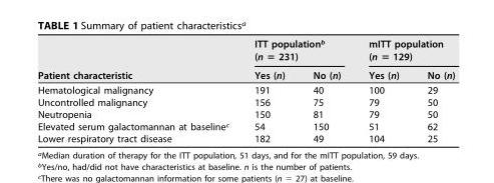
<table><thead><tr><td rowspan="2">Patient characteristic</td><td colspan="2">ITT population<sup>b</sup> (n = 231)</td><td colspan="2">mITT population (n = 129)</td></tr><tr><td>Yes (n)</td><td>No (n)</td><td>Yes (n)</td><td>No (n)</td></tr></thead><tbody><tr><td>Hematological malignancy</td><td>191</td><td>40</td><td>100</td><td>29</td></tr><tr><td>Uncontrolled malignancy</td><td>156</td><td>75</td><td>79</td><td>50</td></tr><tr><td>Neutropenia</td><td>150</td><td>81</td><td>79</td><td>50</td></tr><tr><td>Elevated serum galactomannan at baseline<sup>c</sup></td><td>54</td><td>150</td><td>51</td><td>62</td></tr><tr><td>Lower respiratory tract disease</td><td>182</td><td>49</td><td>104</td><td>25</td></tr></tbody></table>